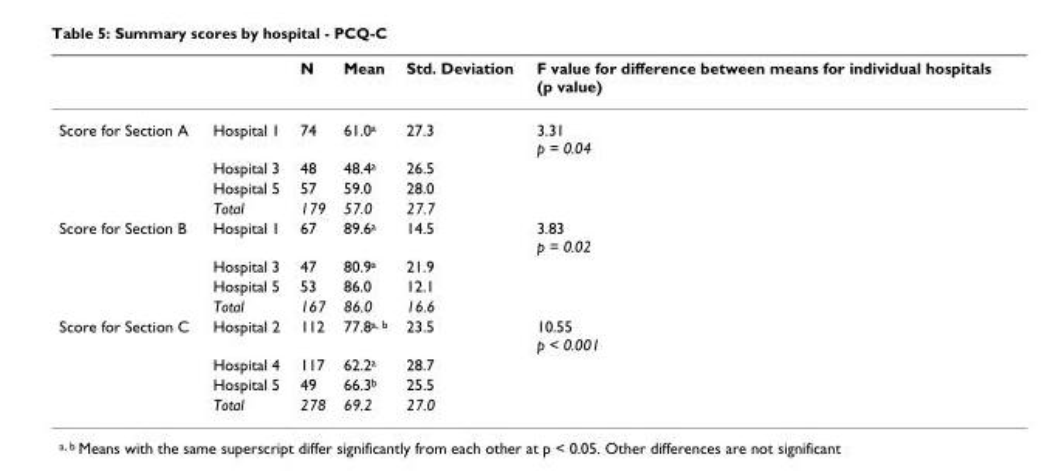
<table><thead><tr><td></td><td></td><td>N</td><td>Mean</td><td>Std. Deviation</td><td>F value for difference between means for individual hospitals (p value)</td></tr></thead><tbody><tr><td rowspan="4">Score for Section A</td><td>Hospital 1</td><td>74</td><td>61.0<sup>a</sup></td><td>27.3</td><td>3.31 p = 0.04</td></tr><tr><td>Hospital 3</td><td>48</td><td>48.4<sup>a</sup></td><td>26.5</td><td></td></tr><tr><td>Hospital 5</td><td>57</td><td>59.0</td><td>28.0</td><td></td></tr><tr><td>Total</td><td>179</td><td>57.0</td><td>27.7</td><td></td></tr><tr><td rowspan="4">Score for Section B</td><td>Hospital 1</td><td>67</td><td>89.6<sup>a</sup></td><td>14.5</td><td>3.83 p = 0.02</td></tr><tr><td>Hospital 3</td><td>47</td><td>80.9<sup>a</sup></td><td>21.9</td><td></td></tr><tr><td>Hospital 5</td><td>53</td><td>86.0</td><td>12.1</td><td></td></tr><tr><td>Total</td><td>167</td><td>86.0</td><td>16.6</td><td></td></tr><tr><td rowspan="4">Score for Section C</td><td>Hospital 2</td><td>112</td><td>77.8<sup>a, b</sup></td><td>23.5</td><td>10.55 p &lt; 0.001</td></tr><tr><td>Hospital 4</td><td>117</td><td>62.2<sup>a</sup></td><td>28.7</td><td></td></tr><tr><td>Hospital 5</td><td>49</td><td>66.3<sup>b</sup></td><td>25.5</td><td></td></tr><tr><td>Total</td><td>278</td><td>69.2</td><td>27.0</td><td></td></tr></tbody></table>